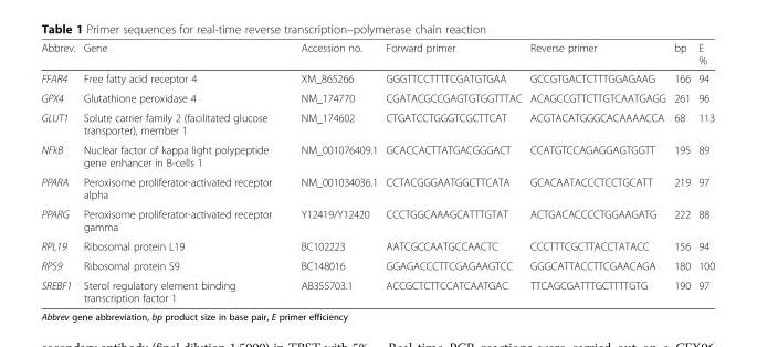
<table><thead><tr><td>Abbrev.</td><td>Gene</td><td>Accession no.</td><td>Forward primer</td><td>Reverse primer</td><td>bp</td><td>E %</td></tr></thead><tbody><tr><td>FFAR4</td><td>Free fatty acid receptor 4</td><td>XM_865266</td><td>GGGTTCCTTTTCGATGTGAA</td><td>GCCGTGACTCTTTGGAGAAG</td><td>166</td><td>94</td></tr><tr><td>GPX4</td><td>Glutathione peroxidase 4</td><td>NM_174770</td><td>CGATACGCCGAGTGTGGTTTAC</td><td>ACAGCCGTTCTTGTCAATGAGG</td><td>261</td><td>96</td></tr><tr><td>GLUT1</td><td>Solute carrier family 2 (facilitated glucose transporter), member 1</td><td>NM_174602</td><td>CTGATCCTGGGTCGCTTCAT</td><td>ACGTACATGGGCACAAAACCA</td><td>68</td><td>113</td></tr><tr><td>NFkB</td><td>Nuclear factor of kappa light polypeptide gene enhancer in B-cells 1</td><td>NM_001076409.1</td><td>GCACCACTTATGACGGGACT</td><td>CCATGTCCAGAGGAGTGGTT</td><td>195</td><td>89</td></tr><tr><td>PPARA</td><td>Peroxisome proliferator-activated receptor alpha</td><td>NM_001034036.1</td><td>CCTACGGGAATGGCTTCATA</td><td>GCACAATACCCTCCTGCATT</td><td>219</td><td>97</td></tr><tr><td>PPARG</td><td>Peroxisome proliferator-activated receptor gamma</td><td>Y12419/Y12420</td><td>CCCTGGCAAAGCATTTGTAT</td><td>ACTGACACCCCTGGAAGATG</td><td>222</td><td>88</td></tr><tr><td>RPL19</td><td>Ribosomal protein L19</td><td>BC102223</td><td>AATCGCCAATGCCAACTC</td><td>CCCTTTCGCTTACCTATACC</td><td>156</td><td>94</td></tr><tr><td>RPS9</td><td>Ribosomal protein S9</td><td>BC148016</td><td>GGAGACCCTTCGAGAAGTCC</td><td>GGGCATTACCTTCGAACAGA</td><td>180</td><td>100</td></tr><tr><td>SREBF1</td><td>Sterol regulatory element binding transcription factor 1</td><td>AB355703.1</td><td>ACCGCTCTTCCATCAATGAC</td><td>TTCAGCGATTTGCTTTTGTG</td><td>190</td><td>97</td></tr></tbody></table>